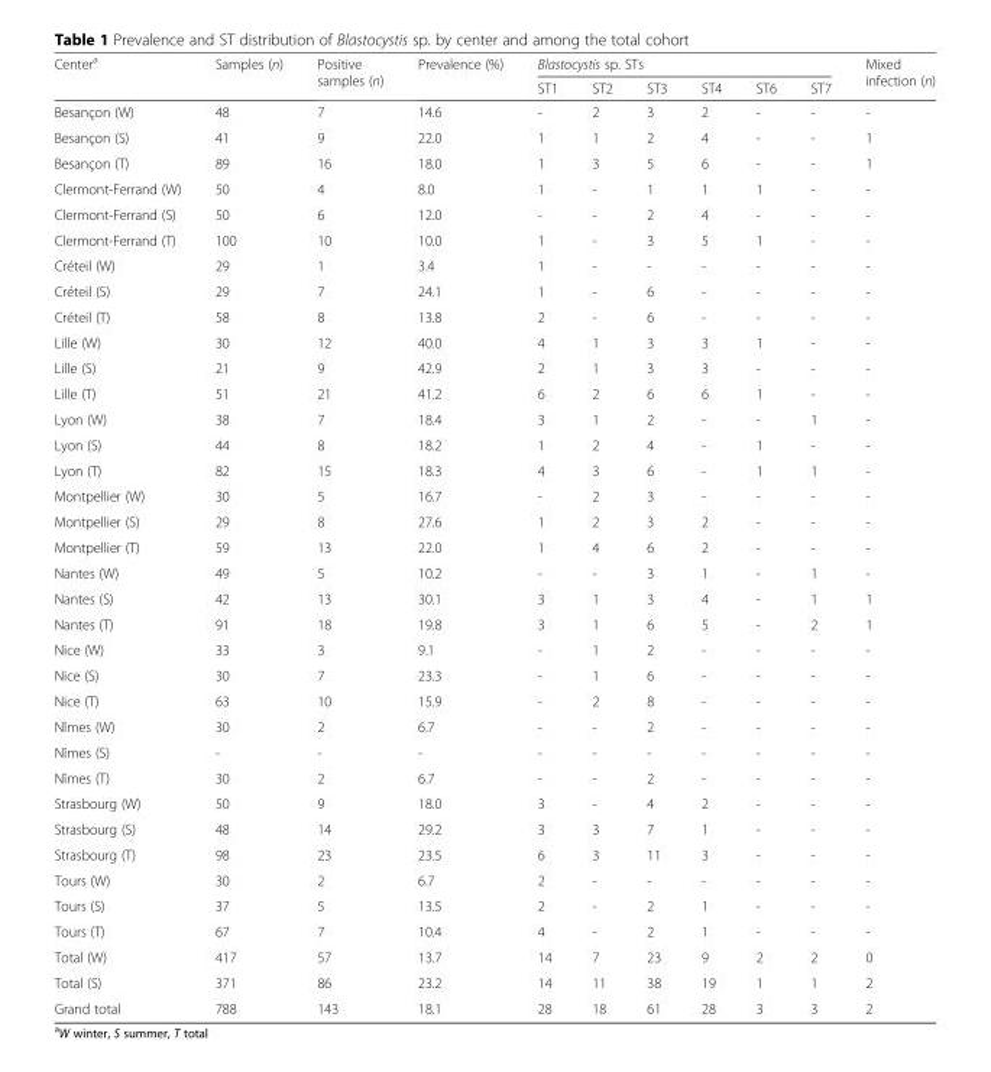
<table><thead><tr><td rowspan="2">Center<sup>a</sup></td><td rowspan="2">Samples (n)</td><td rowspan="2">Positive samples (n)</td><td rowspan="2">Prevalence (%)</td><td colspan="6">Blastocystis sp. STs</td><td rowspan="2">Mixed infection (n)</td></tr><tr><td>ST1</td><td>ST2</td><td>ST3</td><td>ST4</td><td>ST6</td><td>ST7</td></tr></thead><tbody><tr><td>Besançon (W)</td><td>48</td><td>7</td><td>14.6</td><td>-</td><td>2</td><td>3</td><td>2</td><td>-</td><td>-</td><td>-</td></tr><tr><td>Besançon (S)</td><td>41</td><td>9</td><td>22.0</td><td>1</td><td>1</td><td>2</td><td>4</td><td>-</td><td>-</td><td>1</td></tr><tr><td>Besançon (T)</td><td>89</td><td>16</td><td>18.0</td><td>1</td><td>3</td><td>5</td><td>6</td><td>-</td><td>-</td><td>1</td></tr><tr><td>Clermont-Ferrand (W)</td><td>50</td><td>4</td><td>8.0</td><td>1</td><td>-</td><td>1</td><td>1</td><td>1</td><td>-</td><td>-</td></tr><tr><td>Clermont-Ferrand (S)</td><td>50</td><td>6</td><td>12.0</td><td>-</td><td>-</td><td>2</td><td>4</td><td>-</td><td>-</td><td>-</td></tr><tr><td>Clermont-Ferrand (T)</td><td>100</td><td>10</td><td>10.0</td><td>1</td><td>-</td><td>3</td><td>5</td><td>1</td><td>-</td><td>-</td></tr><tr><td>Créteil (W)</td><td>29</td><td>1</td><td>3.4</td><td>1</td><td>-</td><td>-</td><td>-</td><td>-</td><td>-</td><td>-</td></tr><tr><td>Créteil (S)</td><td>29</td><td>7</td><td>24.1</td><td>1</td><td>-</td><td>6</td><td>-</td><td>-</td><td>-</td><td>-</td></tr><tr><td>Créteil (T)</td><td>58</td><td>8</td><td>13.8</td><td>2</td><td>-</td><td>6</td><td>-</td><td>-</td><td>-</td><td>-</td></tr><tr><td>Lille (W)</td><td>30</td><td>12</td><td>40.0</td><td>4</td><td>1</td><td>3</td><td>3</td><td>1</td><td>-</td><td>-</td></tr><tr><td>Lille (S)</td><td>21</td><td>9</td><td>42.9</td><td>2</td><td>1</td><td>3</td><td>3</td><td>-</td><td>-</td><td>-</td></tr><tr><td>Lille (T)</td><td>51</td><td>21</td><td>41.2</td><td>6</td><td>2</td><td>6</td><td>6</td><td>1</td><td>-</td><td>-</td></tr><tr><td>Lyon (W)</td><td>38</td><td>7</td><td>18.4</td><td>3</td><td>1</td><td>2</td><td>-</td><td>-</td><td>1</td><td>-</td></tr><tr><td>Lyon (S)</td><td>44</td><td>8</td><td>18.2</td><td>1</td><td>2</td><td>4</td><td>-</td><td>1</td><td>-</td><td>-</td></tr><tr><td>Lyon (T)</td><td>82</td><td>15</td><td>18.3</td><td>4</td><td>3</td><td>6</td><td>-</td><td>1</td><td>1</td><td>-</td></tr><tr><td>Montpellier (W)</td><td>30</td><td>5</td><td>16.7</td><td>-</td><td>2</td><td>3</td><td>-</td><td>-</td><td>-</td><td>-</td></tr><tr><td>Montpellier (S)</td><td>29</td><td>8</td><td>27.6</td><td>1</td><td>2</td><td>3</td><td>2</td><td>-</td><td>-</td><td>-</td></tr><tr><td>Montpellier (T)</td><td>59</td><td>13</td><td>22.0</td><td>1</td><td>4</td><td>6</td><td>2</td><td>-</td><td>-</td><td>-</td></tr><tr><td>Nantes (W)</td><td>49</td><td>5</td><td>10.2</td><td>-</td><td>-</td><td>3</td><td>1</td><td>-</td><td>1</td><td>-</td></tr><tr><td>Nantes (S)</td><td>42</td><td>13</td><td>30.1</td><td>3</td><td>1</td><td>3</td><td>4</td><td>-</td><td>1</td><td>1</td></tr><tr><td>Nantes (T)</td><td>91</td><td>18</td><td>19.8</td><td>3</td><td>1</td><td>6</td><td>5</td><td>-</td><td>2</td><td>1</td></tr><tr><td>Nice (W)</td><td>33</td><td>3</td><td>9.1</td><td>-</td><td>1</td><td>2</td><td>-</td><td>-</td><td>-</td><td>-</td></tr><tr><td>Nice (S)</td><td>30</td><td>7</td><td>23.3</td><td>-</td><td>1</td><td>6</td><td>-</td><td>-</td><td>-</td><td>-</td></tr><tr><td>Nice (T)</td><td>63</td><td>10</td><td>15.9</td><td>-</td><td>2</td><td>8</td><td>-</td><td>-</td><td>-</td><td>-</td></tr><tr><td>Nîmes (W)</td><td>30</td><td>2</td><td>6.7</td><td>-</td><td>-</td><td>2</td><td>-</td><td>-</td><td>-</td><td>-</td></tr><tr><td>Nîmes (S)</td><td>-</td><td>-</td><td>-</td><td>-</td><td>-</td><td>-</td><td>-</td><td>-</td><td>-</td><td>-</td></tr><tr><td>Nîmes (T)</td><td>30</td><td>2</td><td>6.7</td><td>-</td><td>-</td><td>2</td><td>-</td><td>-</td><td>-</td><td>-</td></tr><tr><td>Strasbourg (W)</td><td>50</td><td>9</td><td>18.0</td><td>3</td><td>-</td><td>4</td><td>2</td><td>-</td><td>-</td><td>-</td></tr><tr><td>Strasbourg (S)</td><td>48</td><td>14</td><td>29.2</td><td>3</td><td>3</td><td>7</td><td>1</td><td>-</td><td>-</td><td>-</td></tr><tr><td>Strasbourg (T)</td><td>98</td><td>23</td><td>23.5</td><td>6</td><td>3</td><td>11</td><td>3</td><td>-</td><td>-</td><td>-</td></tr><tr><td>Tours (W)</td><td>30</td><td>2</td><td>6.7</td><td>2</td><td>-</td><td>-</td><td>-</td><td>-</td><td>-</td><td>-</td></tr><tr><td>Tours (S)</td><td>37</td><td>5</td><td>13.5</td><td>2</td><td>-</td><td>2</td><td>1</td><td>-</td><td>-</td><td>-</td></tr><tr><td>Tours (T)</td><td>67</td><td>7</td><td>10.4</td><td>4</td><td>-</td><td>2</td><td>1</td><td>-</td><td>-</td><td>-</td></tr><tr><td>Total (W)</td><td>417</td><td>57</td><td>13.7</td><td>14</td><td>7</td><td>23</td><td>9</td><td>2</td><td>2</td><td>0</td></tr><tr><td>Total (S)</td><td>371</td><td>86</td><td>23.2</td><td>14</td><td>11</td><td>38</td><td>19</td><td>1</td><td>1</td><td>2</td></tr><tr><td>Grand total</td><td>788</td><td>143</td><td>18.1</td><td>28</td><td>18</td><td>61</td><td>28</td><td>3</td><td>3</td><td>2</td></tr></tbody></table>